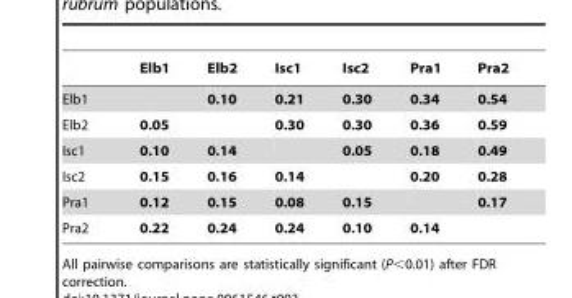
<table><thead><tr><td></td><td>Elb1</td><td>Elb2</td><td>Isc1</td><td>Isc2</td><td>Pra1</td><td>Pra2</td></tr></thead><tbody><tr><td>Elb1</td><td></td><td>0.10</td><td>0.21</td><td>0.30</td><td>0.34</td><td>0.54</td></tr><tr><td>Elb2</td><td>0.05</td><td></td><td>0.30</td><td>0.30</td><td>0.36</td><td>0.59</td></tr><tr><td>Isc1</td><td>0.10</td><td>0.14</td><td></td><td>0.05</td><td>0.18</td><td>0.49</td></tr><tr><td>Isc2</td><td>0.15</td><td>0.16</td><td>0.14</td><td></td><td>0.20</td><td>0.28</td></tr><tr><td>Pra1</td><td>0.12</td><td>0.15</td><td>0.08</td><td>0.15</td><td></td><td>0.17</td></tr><tr><td>Pra2</td><td>0.22</td><td>0.24</td><td>0.24</td><td>0.10</td><td>0.14</td><td></td></tr></tbody></table>